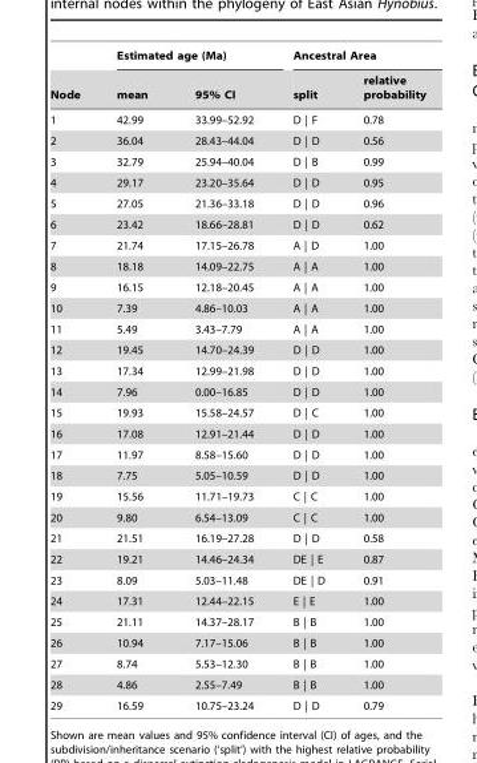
<table><thead><tr><td rowspan="2">Node</td><td colspan="2">Estimated age (Ma)</td><td colspan="2">Ancestral Area</td></tr><tr><td>mean</td><td>95% CI</td><td>split</td><td>relative probability</td></tr></thead><tbody><tr><td>1</td><td>42.99</td><td>33.99–52.92</td><td>D | F</td><td>0.78</td></tr><tr><td>2</td><td>36.04</td><td>28.43–44.04</td><td>D | D</td><td>0.56</td></tr><tr><td>3</td><td>32.79</td><td>25.94–40.04</td><td>D | B</td><td>0.99</td></tr><tr><td>4</td><td>29.17</td><td>23.20–35.64</td><td>D | D</td><td>0.95</td></tr><tr><td>5</td><td>27.05</td><td>21.36–33.18</td><td>D | D</td><td>0.96</td></tr><tr><td>6</td><td>23.42</td><td>18.66–28.81</td><td>D | D</td><td>0.62</td></tr><tr><td>7</td><td>21.74</td><td>17.15–26.78</td><td>A | D</td><td>1.00</td></tr><tr><td>8</td><td>18.18</td><td>14.09–22.75</td><td>A | A</td><td>1.00</td></tr><tr><td>9</td><td>16.15</td><td>12.18–20.45</td><td>A | A</td><td>1.00</td></tr><tr><td>10</td><td>7.39</td><td>4.86–10.03</td><td>A | A</td><td>1.00</td></tr><tr><td>11</td><td>5.49</td><td>3.43–7.79</td><td>A | A</td><td>1.00</td></tr><tr><td>12</td><td>19.45</td><td>14.70–24.39</td><td>D | D</td><td>1.00</td></tr><tr><td>13</td><td>17.34</td><td>12.99–21.98</td><td>D | D</td><td>1.00</td></tr><tr><td>14</td><td>7.96</td><td>0.00–16.85</td><td>D | D</td><td>1.00</td></tr><tr><td>15</td><td>19.93</td><td>15.58–24.57</td><td>D | C</td><td>1.00</td></tr><tr><td>16</td><td>17.08</td><td>12.91–21.44</td><td>D | D</td><td>1.00</td></tr><tr><td>17</td><td>11.97</td><td>8.58–15.60</td><td>D | D</td><td>1.00</td></tr><tr><td>18</td><td>7.75</td><td>5.05–10.59</td><td>D | D</td><td>1.00</td></tr><tr><td>19</td><td>15.56</td><td>11.71–19.73</td><td>C | C</td><td>1.00</td></tr><tr><td>20</td><td>9.80</td><td>6.54–13.09</td><td>C | C</td><td>1.00</td></tr><tr><td>21</td><td>21.51</td><td>16.19–27.28</td><td>D | D</td><td>0.58</td></tr><tr><td>22</td><td>19.21</td><td>14.46–24.34</td><td>DE | E</td><td>0.87</td></tr><tr><td>23</td><td>8.09</td><td>5.03–11.48</td><td>DE | D</td><td>0.91</td></tr><tr><td>24</td><td>17.31</td><td>12.44–22.15</td><td>E | E</td><td>1.00</td></tr><tr><td>25</td><td>21.11</td><td>14.37–28.17</td><td>B | B</td><td>1.00</td></tr><tr><td>26</td><td>10.94</td><td>7.17–15.06</td><td>B | B</td><td>1.00</td></tr><tr><td>27</td><td>8.74</td><td>5.53–12.30</td><td>B | B</td><td>1.00</td></tr><tr><td>28</td><td>4.86</td><td>2.55–7.49</td><td>B | B</td><td>1.00</td></tr><tr><td>29</td><td>16.59</td><td>10.75–23.24</td><td>D | D</td><td>0.79</td></tr></tbody></table>